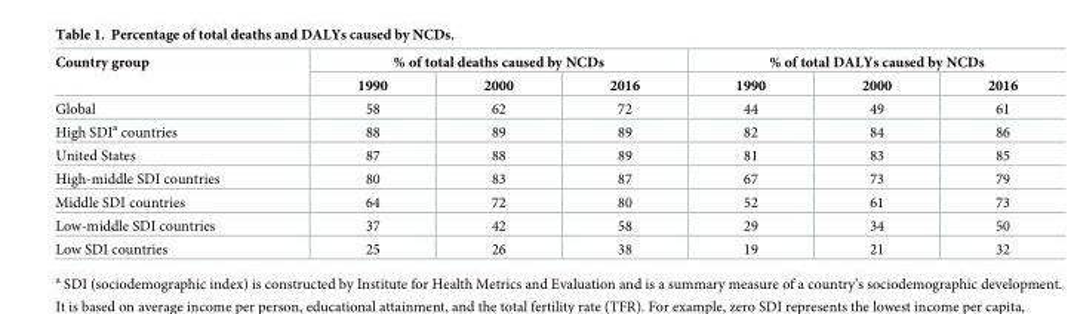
<table><thead><tr><td rowspan="2">Country group</td><td colspan="3">% of total deaths caused by NCDs</td><td colspan="3">% of total DALYs caused by NCDs</td></tr><tr><td>1990</td><td>2000</td><td>2016</td><td>1990</td><td>2000</td><td>2016</td></tr></thead><tbody><tr><td>Global</td><td>58</td><td>62</td><td>72</td><td>44</td><td>49</td><td>61</td></tr><tr><td>High SDI<sup>a</sup> countries</td><td>88</td><td>89</td><td>89</td><td>82</td><td>84</td><td>86</td></tr><tr><td>United States</td><td>87</td><td>88</td><td>89</td><td>81</td><td>83</td><td>85</td></tr><tr><td>High-middle SDI countries</td><td>80</td><td>83</td><td>87</td><td>67</td><td>73</td><td>79</td></tr><tr><td>Middle SDI countries</td><td>64</td><td>72</td><td>80</td><td>52</td><td>61</td><td>73</td></tr><tr><td>Low-middle SDI countries</td><td>37</td><td>42</td><td>58</td><td>29</td><td>34</td><td>50</td></tr><tr><td>Low SDI countries</td><td>25</td><td>26</td><td>38</td><td>19</td><td>21</td><td>32</td></tr></tbody></table>